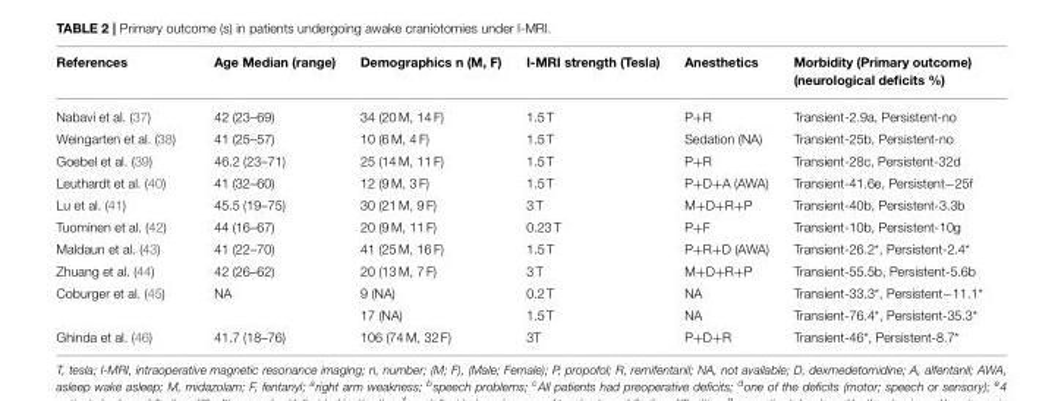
<table><thead><tr><td>References</td><td>Age Median (range)</td><td>Demographics n (M, F)</td><td>I-MRI strength (Tesla)</td><td>Anesthetics</td><td>Morbidity (Primary outcome) (neurological deficits %)</td></tr></thead><tbody><tr><td>Nabavi et al. (37)</td><td>42 (23–69)</td><td>34 (20 M, 14 F)</td><td>1.5 T</td><td>P+R</td><td>Transient-2.9a, Persistent-no</td></tr><tr><td>Weingarten et al. (38)</td><td>41 (25–57)</td><td>10 (6 M, 4 F)</td><td>1.5 T</td><td>Sedation (NA)</td><td>Transient-25b, Persistent-no</td></tr><tr><td>Goebel et al. (39)</td><td>46.2 (23–71)</td><td>25 (14 M, 11 F)</td><td>1.5 T</td><td>P+R</td><td>Transient-28c, Persistent-32d</td></tr><tr><td>Leuthardt et al. (40)</td><td>41 (32–60)</td><td>12 (9 M, 3 F)</td><td>1.5 T</td><td>P+D+A (AWA)</td><td>Transient-41.6e, Persistent−25f</td></tr><tr><td>Lu et al. (41)</td><td>45.5 (19–75)</td><td>30 (21 M, 9 F)</td><td>3 T</td><td>M+D+R+P</td><td>Transient-40b, Persistent-3.3b</td></tr><tr><td>Tuominen et al. (42)</td><td>44 (16–67)</td><td>20 (9 M, 11 F)</td><td>0.23 T</td><td>P+F</td><td>Transient-10b, Persistent-10g</td></tr><tr><td>Maldaun et al. (43)</td><td>41 (22–70)</td><td>41 (25 M, 16 F)</td><td>1.5 T</td><td>P+R+D (AWA)</td><td>Transient-26.2*, Persistent-2.4*</td></tr><tr><td>Zhuang et al. (44)</td><td>42 (26–62)</td><td>20 (13 M, 7 F)</td><td>3 T</td><td>M+D+R+P</td><td>Transient-55.5b, Persistent-5.6b</td></tr><tr><td rowspan="2">Coburger et al. (45)</td><td>NA</td><td>9 (NA)</td><td>0.2 T</td><td>NA</td><td>Transient-33.3*, Persistent−11.1*</td></tr><tr><td></td><td>17 (NA)</td><td>1.5 T</td><td>NA</td><td>Transient-76.4*, Persistent-35.3*</td></tr><tr><td>Ghinda et al. (46)</td><td>41.7 (18–76)</td><td>106 (74 M, 32 F)</td><td>3T</td><td>P+D+R</td><td>Transient-46*, Persistent-8.7*</td></tr></tbody></table>